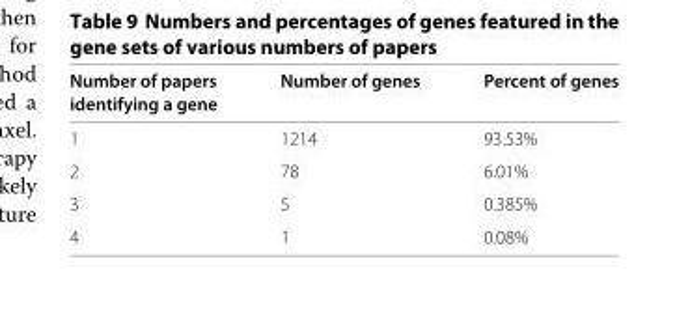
<table><thead><tr><td rowspan="2">Number of papers identifying a gene</td><td rowspan="2">Number of genes</td><td rowspan="2">Percent of genes</td></tr><tr></tr></thead><tbody><tr><td>1</td><td>1214</td><td>93.53%</td></tr><tr><td>2</td><td>78</td><td>6.01%</td></tr><tr><td>3</td><td>5</td><td>0.385%</td></tr><tr><td>4</td><td>1</td><td>0.08%</td></tr></tbody></table>